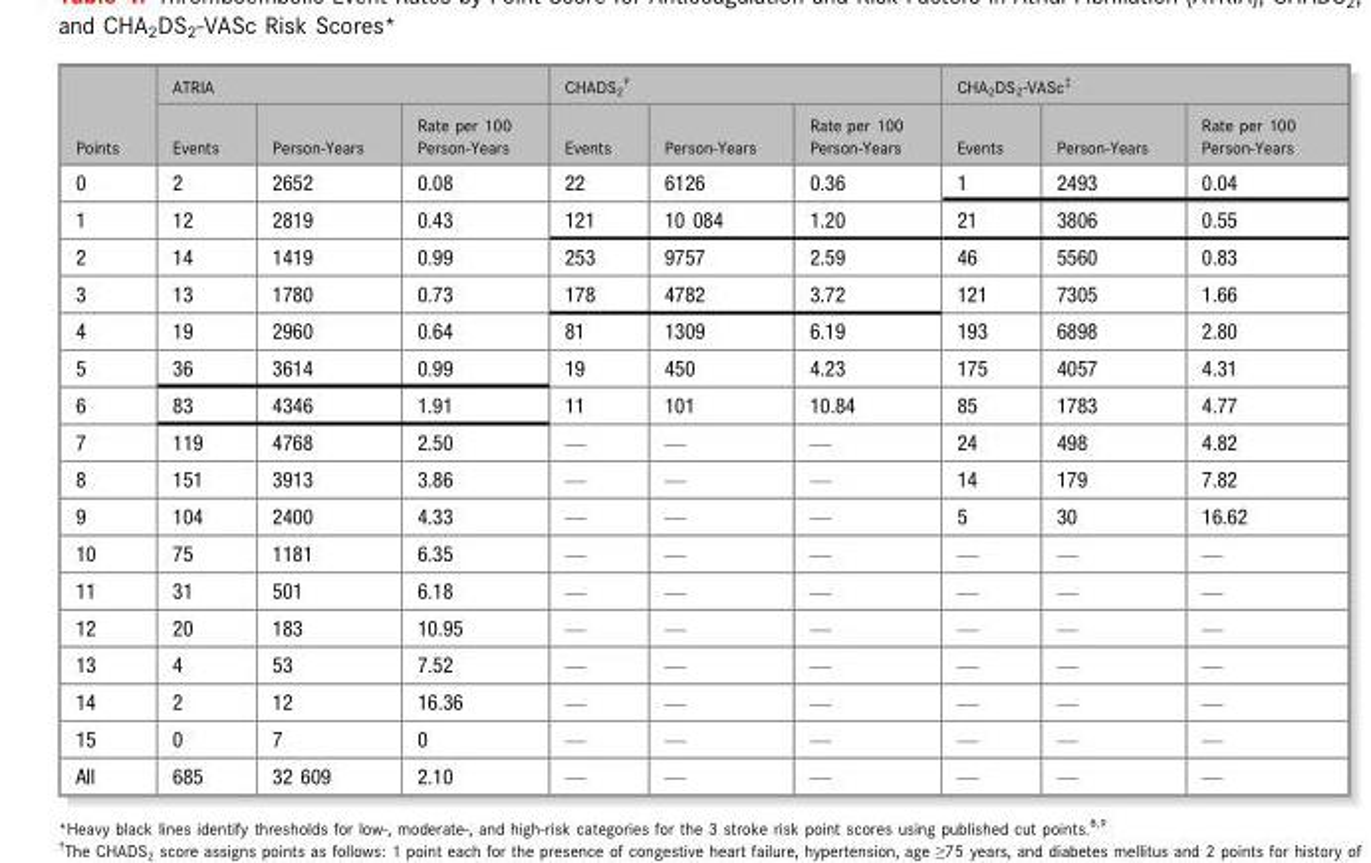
<table><thead><tr><td rowspan="2">Points</td><td colspan="3">ATRIA</td><td colspan="3">CHADS2 †</td><td colspan="3">CHA2DS2-VASc‡</td></tr><tr><td>Events</td><td>Person-Years</td><td>Rate per 100 Person-Years</td><td>Events</td><td>Person-Years</td><td>Rate per 100 Person-Years</td><td>Events</td><td>Person-Years</td><td>Rate per 100 Person-Years</td></tr></thead><tbody><tr><td>0</td><td>2</td><td>2652</td><td>0.08</td><td>22</td><td>6126</td><td>0.36</td><td>1</td><td>2493</td><td>0.04</td></tr><tr><td>1</td><td>12</td><td>2819</td><td>0.43</td><td>121</td><td>10 084</td><td>1.20</td><td>21</td><td>3806</td><td>0.55</td></tr><tr><td>2</td><td>14</td><td>1419</td><td>0.99</td><td>253</td><td>9757</td><td>2.59</td><td>46</td><td>5560</td><td>0.83</td></tr><tr><td>3</td><td>13</td><td>1780</td><td>0.73</td><td>178</td><td>4782</td><td>3.72</td><td>121</td><td>7305</td><td>1.66</td></tr><tr><td>4</td><td>19</td><td>2960</td><td>0.64</td><td>81</td><td>1309</td><td>6.19</td><td>193</td><td>6898</td><td>2.80</td></tr><tr><td>5</td><td>36</td><td>3614</td><td>0.99</td><td>19</td><td>450</td><td>4.23</td><td>175</td><td>4057</td><td>4.31</td></tr><tr><td>6</td><td>83</td><td>4346</td><td>1.91</td><td>11</td><td>101</td><td>10.84</td><td>85</td><td>1783</td><td>4.77</td></tr><tr><td>7</td><td>119</td><td>4768</td><td>2.50</td><td>—</td><td>—</td><td>—</td><td>24</td><td>498</td><td>4.82</td></tr><tr><td>8</td><td>151</td><td>3913</td><td>3.86</td><td>—</td><td>—</td><td>—</td><td>14</td><td>179</td><td>7.82</td></tr><tr><td>9</td><td>104</td><td>2400</td><td>4.33</td><td>—</td><td>—</td><td>—</td><td>5</td><td>30</td><td>16.62</td></tr><tr><td>10</td><td>75</td><td>1181</td><td>6.35</td><td>—</td><td>—</td><td>—</td><td>—</td><td>—</td><td>—</td></tr><tr><td>11</td><td>31</td><td>501</td><td>6.18</td><td>—</td><td>—</td><td>—</td><td>—</td><td>—</td><td>—</td></tr><tr><td>12</td><td>20</td><td>183</td><td>10.95</td><td>—</td><td>—</td><td>—</td><td>—</td><td>—</td><td>—</td></tr><tr><td>13</td><td>4</td><td>53</td><td>7.52</td><td>—</td><td>—</td><td>—</td><td>—</td><td>—</td><td>—</td></tr><tr><td>14</td><td>2</td><td>12</td><td>16.36</td><td>—</td><td>—</td><td>—</td><td>—</td><td>—</td><td>—</td></tr><tr><td>15</td><td>0</td><td>7</td><td>0</td><td>—</td><td>—</td><td>—</td><td>—</td><td>—</td><td>—</td></tr><tr><td>All</td><td>685</td><td>32 609</td><td>2.10</td><td>—</td><td>—</td><td>—</td><td>—</td><td>—</td><td>—</td></tr></tbody></table>